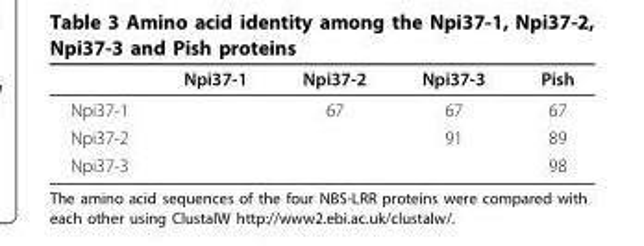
<table><thead><tr><td></td><td>Npi37-1</td><td>Npi37-2</td><td>Npi37-3</td><td>Pish</td></tr></thead><tbody><tr><td>Npi37-1</td><td></td><td>67</td><td>67</td><td>67</td></tr><tr><td>Npi37-2</td><td></td><td></td><td>91</td><td>89</td></tr><tr><td>Npi37-3</td><td></td><td></td><td></td><td>98</td></tr></tbody></table>